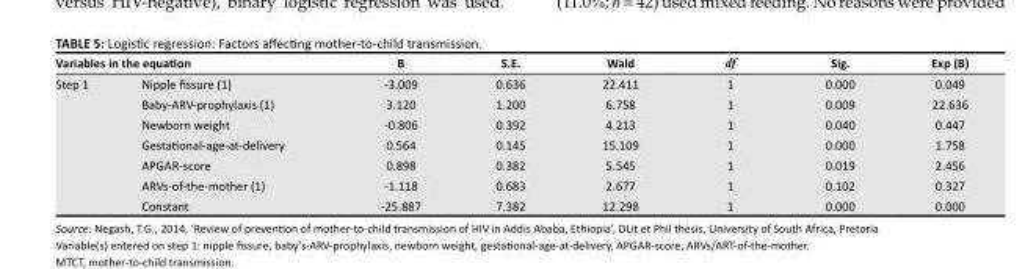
<table><thead><tr><td colspan="2">Variables in the equation</td><td rowspan="2">B -3.009</td><td rowspan="2">S.E. 0.636</td><td rowspan="2">Wald 22.411</td><td rowspan="2">df 1</td><td rowspan="2">Sig. 0.000</td><td rowspan="2">Exp (B) 0.049</td></tr><tr><td>Step 1</td><td>Nipple fissure (1)</td></tr></thead><tbody><tr><td></td><td>Baby-ARV-prophylaxis (1)</td><td>3.120</td><td>1.200</td><td>6.758</td><td>1</td><td>0.009</td><td>22.636</td></tr><tr><td></td><td>Newborn weight</td><td>-0.806</td><td>0.392</td><td>4.213</td><td>1</td><td>0.040</td><td>0.447</td></tr><tr><td></td><td>Gestational-age-at-delivery</td><td>0.564</td><td>0.145</td><td>15.109</td><td>1</td><td>0.000</td><td>1.758</td></tr><tr><td></td><td>APGAR-score</td><td>0.898</td><td>0.382</td><td>5.545</td><td>1</td><td>0.019</td><td>2.456</td></tr><tr><td></td><td>ARVs-of-the-mother (1)</td><td>-1.118</td><td>0.683</td><td>2.677</td><td>1</td><td>0.102</td><td>0.327</td></tr><tr><td></td><td>Constant</td><td>-25.887</td><td>7.382</td><td>12.298</td><td>1</td><td>0.000</td><td>0.000</td></tr></tbody></table>